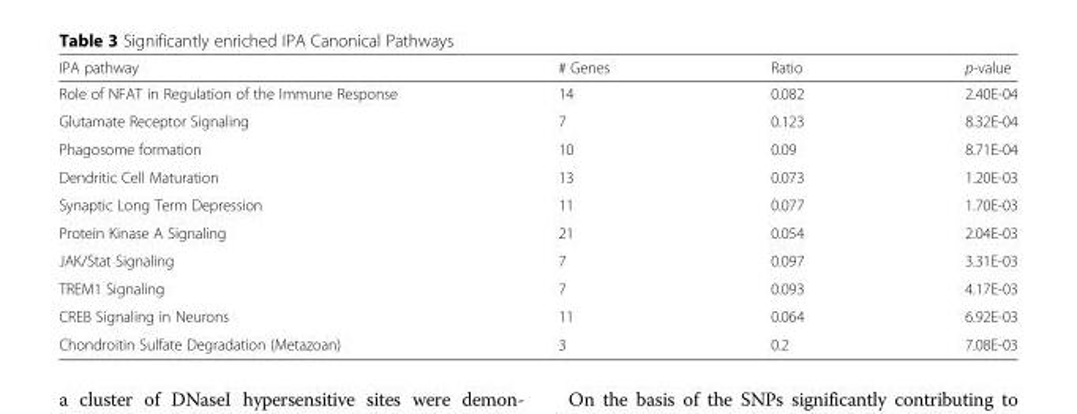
<table><thead><tr><td>IPA pathway</td><td># Genes</td><td>Ratio</td><td>p-value</td></tr></thead><tbody><tr><td>Role of NFAT in Regulation of the Immune Response</td><td>14</td><td>0.082</td><td>2.40E-04</td></tr><tr><td>Glutamate Receptor Signaling</td><td>7</td><td>0.123</td><td>8.32E-04</td></tr><tr><td>Phagosome formation</td><td>10</td><td>0.09</td><td>8.71E-04</td></tr><tr><td>Dendritic Cell Maturation</td><td>13</td><td>0.073</td><td>1.20E-03</td></tr><tr><td>Synaptic Long Term Depression</td><td>11</td><td>0.077</td><td>1.70E-03</td></tr><tr><td>Protein Kinase A Signaling</td><td>21</td><td>0.054</td><td>2.04E-03</td></tr><tr><td>JAK/Stat Signaling</td><td>7</td><td>0.097</td><td>3.31E-03</td></tr><tr><td>TREM1 Signaling</td><td>7</td><td>0.093</td><td>4.17E-03</td></tr><tr><td>CREB Signaling in Neurons</td><td>11</td><td>0.064</td><td>6.92E-03</td></tr><tr><td>Chondroitin Sulfate Degradation (Metazoan)</td><td>3</td><td>0.2</td><td>7.08E-03</td></tr></tbody></table>